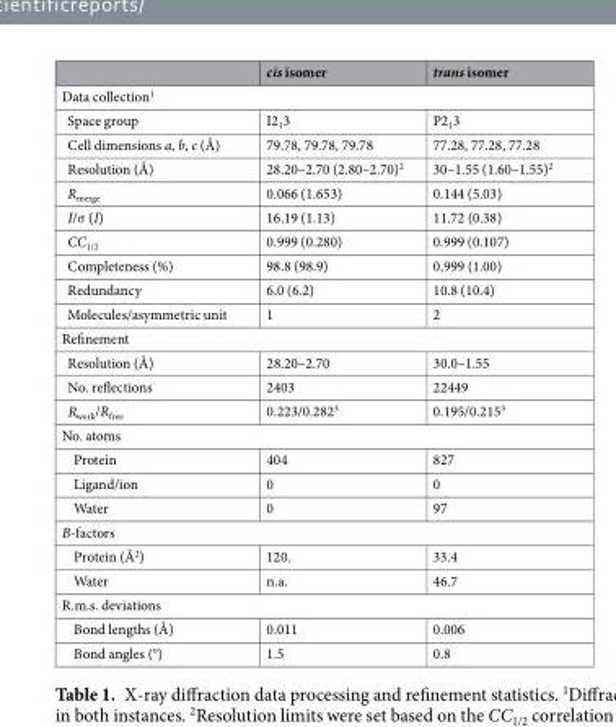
<table><thead><tr><td></td><td>cis isomer</td><td>trans isomer</td></tr></thead><tbody><tr><td colspan="3">Data collection<sup>1</sup></td></tr><tr><td>Space group</td><td>I2<sub>1</sub>3</td><td>P2<sub>1</sub>3</td></tr><tr><td>Cell dimensions a, b, c (Å)</td><td>79.78, 79.78, 79.78</td><td>77.28, 77.28, 77.28</td></tr><tr><td>Resolution (Å)</td><td>28.20–2.70 (2.80–2.70)<sup>2</sup></td><td>30–1.55 (1.60–1.55)<sup>2</sup></td></tr><tr><td>R<sub>merge</sub></td><td>0.066 (1.653)</td><td>0.144 (5.03)</td></tr><tr><td>I/σ (I)</td><td>16.19 (1.13)</td><td>11.72 (0.38)</td></tr><tr><td>CC<sub>1/2</sub></td><td>0.999 (0.280)</td><td>0.999 (0.107)</td></tr><tr><td>Completeness (%)</td><td>98.8 (98.9)</td><td>0.999 (1.00)</td></tr><tr><td>Redundancy</td><td>6.0 (6.2)</td><td>10.8 (10.4)</td></tr><tr><td>Molecules/asymmetric unit</td><td>1</td><td>2</td></tr><tr><td colspan="3">Refinement</td></tr><tr><td>Resolution (Å)</td><td>28.20–2.70</td><td>30.0–1.55</td></tr><tr><td>No. reflections</td><td>2403</td><td>22449</td></tr><tr><td>R<sub>work</sub>/R<sub>free</sub></td><td>0.223/0.282<sup>3</sup></td><td>0.195/0.215<sup>3</sup></td></tr><tr><td colspan="3">No. atoms</td></tr><tr><td>Protein</td><td>404</td><td>827</td></tr><tr><td>Ligand/ion</td><td>0</td><td>0</td></tr><tr><td>Water</td><td>0</td><td>97</td></tr><tr><td colspan="3">B-factors</td></tr><tr><td>Protein (Å<sup>2</sup>)</td><td>120.</td><td>33.4</td></tr><tr><td>Water</td><td>n.a.</td><td>46.7</td></tr><tr><td colspan="3">R.m.s. deviations</td></tr><tr><td>Bond lengths (Å)</td><td>0.011</td><td>0.006</td></tr><tr><td>Bond angles (°)</td><td>1.5</td><td>0.8</td></tr></tbody></table>